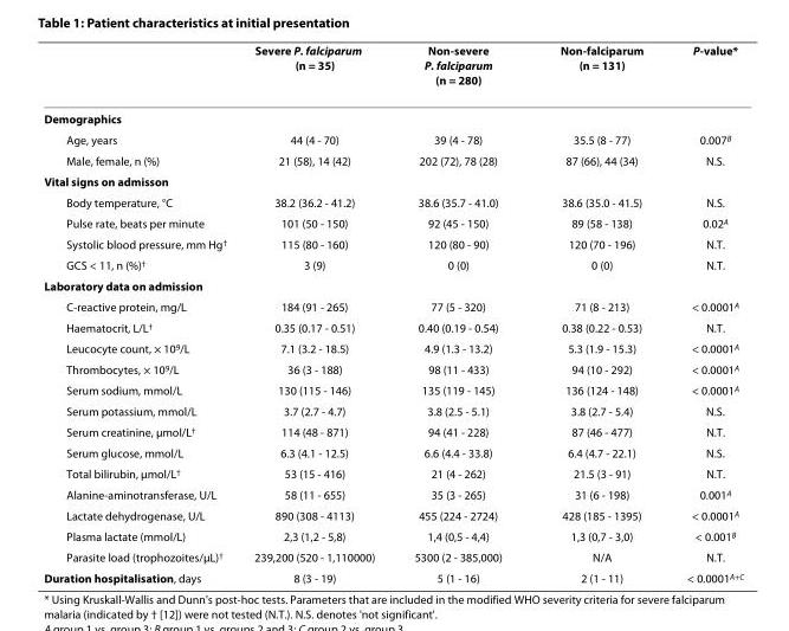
<table><thead><tr><td></td><td>Severe P. falciparum (n = 35)</td><td>Non-severe P. falciparum (n = 280)</td><td>Non-falciparum (n = 131)</td><td>P-value*</td></tr></thead><tbody><tr><td colspan="5">Demographics</td></tr><tr><td>Age, years</td><td>44 (4 - 70)</td><td>39 (4 - 78)</td><td>35.5 (8 - 77)</td><td>0.007<sup>B</sup></td></tr><tr><td>Male, female, n (%)</td><td>21 (58), 14 (42)</td><td>202 (72), 78 (28)</td><td>87 (66), 44 (34)</td><td>N.S.</td></tr><tr><td colspan="5">Vital signs on admisson</td></tr><tr><td>Body temperature, °C</td><td>38.2 (36.2 - 41.2)</td><td>38.6 (35.7 - 41.0)</td><td>38.6 (35.0 - 41.5)</td><td>N.S.</td></tr><tr><td>Pulse rate, beats per minute</td><td>101 (50 - 150)</td><td>92 (45 - 150)</td><td>89 (58 - 138)</td><td>0.02<sup>A</sup></td></tr><tr><td>Systolic blood pressure, mm Hg<sup>†</sup></td><td>115 (80 - 160)</td><td>120 (80 - 90)</td><td>120 (70 - 196)</td><td>N.T.</td></tr><tr><td>GCS &lt; 11, n (%)<sup>†</sup></td><td>3 (9)</td><td>0 (0)</td><td>0 (0)</td><td>N.T.</td></tr><tr><td colspan="5">Laboratory data on admission</td></tr><tr><td>C-reactive protein, mg/L</td><td>184 (91 - 265)</td><td>77 (5 - 320)</td><td>71 (8 - 213)</td><td>&lt; 0.0001<sup>A</sup></td></tr><tr><td>Haematocrit, L/L<sup>†</sup></td><td>0.35 (0.17 - 0.51)</td><td>0.40 (0.19 - 0.54)</td><td>0.38 (0.22 - 0.53)</td><td>N.T.</td></tr><tr><td>Leucocyte count, × 10<sup>9</sup>/L</td><td>7.1 (3.2 - 18.5)</td><td>4.9 (1.3 - 13.2)</td><td>5.3 (1.9 - 15.3)</td><td>&lt; 0.0001<sup>A</sup></td></tr><tr><td>Thrombocytes, × 10<sup>9</sup>/L</td><td>36 (3 - 188)</td><td>98 (11 - 433)</td><td>94 (10 - 292)</td><td>&lt; 0.0001<sup>A</sup></td></tr><tr><td>Serum sodium, mmol/L</td><td>130 (115 - 146)</td><td>135 (119 - 145)</td><td>136 (124 - 148)</td><td>&lt; 0.0001<sup>A</sup></td></tr><tr><td>Serum potassium, mmol/L</td><td>3.7 (2.7 - 4.7)</td><td>3.8 (2.5 - 5.1)</td><td>3.8 (2.7 - 5.4)</td><td>N.S.</td></tr><tr><td>Serum creatinine, μmol/L<sup>†</sup></td><td>114 (48 - 871)</td><td>94 (41 - 228)</td><td>87 (46 - 477)</td><td>N.T.</td></tr><tr><td>Serum glucose, mmol/L</td><td>6.3 (4.1 - 12.5)</td><td>6.6 (4.4 - 33.8)</td><td>6.4 (4.7 - 22.1)</td><td>N.S.</td></tr><tr><td>Total bilirubin, μmol/L<sup>†</sup></td><td>53 (15 - 416)</td><td>21 (4 - 262)</td><td>21.5 (3 - 91)</td><td>N.T.</td></tr><tr><td>Alanine-aminotransferase, U/L</td><td>58 (11 - 655)</td><td>35 (3 - 265)</td><td>31 (6 - 198)</td><td>0.001<sup>A</sup></td></tr><tr><td>Lactate dehydrogenase, U/L</td><td>890 (308 - 4113)</td><td>455 (224 - 2724)</td><td>428 (185 - 1395)</td><td>&lt; 0.0001<sup>A</sup></td></tr><tr><td>Plasma lactate (mmol/L)</td><td>2,3 (1,2 - 5,8)</td><td>1,4 (0,5 - 4,4)</td><td>1,3 (0,7 - 3,0)</td><td>&lt; 0.001<sup>B</sup></td></tr><tr><td>Parasite load (trophozoites/μL)<sup>†</sup></td><td>239,200 (520 - 1,110000)</td><td>5300 (2 - 385,000)</td><td>N/A</td><td>N.T.</td></tr><tr><td>Duration hospitalisation, days</td><td>8 (3 - 19)</td><td>5 (1 - 16)</td><td>2 (1 - 11)</td><td>&lt; 0.0001<sup>A+C</sup></td></tr></tbody></table>